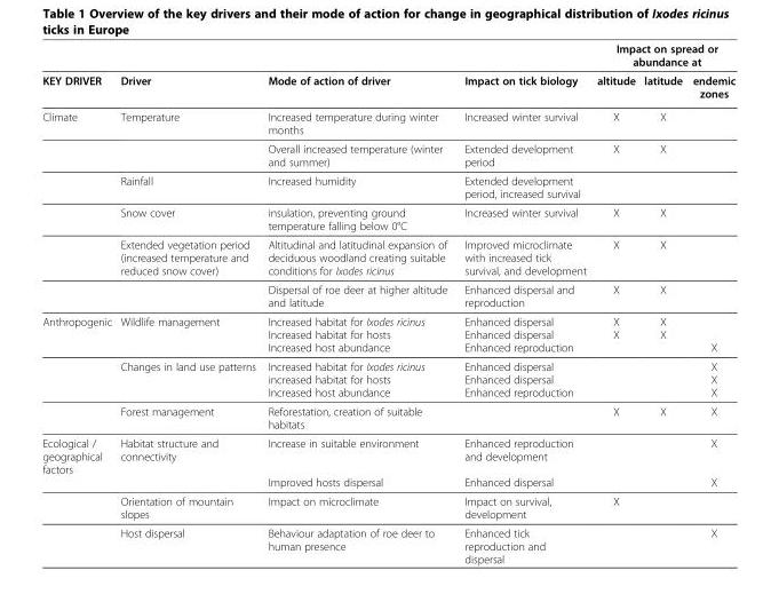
<table><thead><tr><td rowspan="2">KEY DRIVER</td><td rowspan="2">Driver</td><td rowspan="2">Mode of action of driver</td><td rowspan="2">Impact on tick biology</td><td colspan="3">Impact on spread or abundance at</td></tr><tr><td>altitude</td><td>latitude</td><td>endemic zones</td></tr></thead><tbody><tr><td rowspan="6">Climate</td><td>Temperature</td><td>Increased temperature during winter months</td><td>Increased winter survival</td><td>X</td><td>X</td><td></td></tr><tr><td></td><td>Overall increased temperature (winter and summer)</td><td>Extended development period</td><td>X</td><td>X</td><td></td></tr><tr><td>Rainfall</td><td>Increased humidity</td><td>Extended development period, increased survival</td><td></td><td></td><td></td></tr><tr><td>Snow cover</td><td>insulation, preventing ground temperature falling below 0°C</td><td>Increased winter survival</td><td>X</td><td>X</td><td></td></tr><tr><td>Extended vegetation period (increased temperature and reduced snow cover)</td><td>Altitudinal and latitudinal expansion of deciduous woodland creating suitable conditions for Ixodes ricinus</td><td>Improved microclimate with increased tick survival, and development</td><td>X</td><td>X</td><td></td></tr><tr><td></td><td>Dispersal of roe deer at higher altitude and latitude</td><td>Enhanced dispersal and reproduction</td><td>X</td><td>X</td><td></td></tr><tr><td rowspan="7">Anthropogenic</td><td>Wildlife management</td><td>Increased habitat for Ixodes ricinus</td><td>Enhanced dispersal</td><td>X</td><td>X</td><td></td></tr><tr><td></td><td>Increased habitat for hosts</td><td>Enhanced dispersal</td><td>X</td><td>X</td><td></td></tr><tr><td></td><td>Increased host abundance</td><td>Enhanced reproduction</td><td></td><td></td><td>X</td></tr><tr><td>Changes in land use patterns</td><td>Increased habitat for Ixodes ricinus</td><td>Enhanced dispersal</td><td></td><td></td><td>X</td></tr><tr><td></td><td>increased habitat for hosts</td><td>Enhanced dispersal</td><td></td><td></td><td>X</td></tr><tr><td></td><td>Increased host abundance</td><td>Enhanced reproduction</td><td></td><td></td><td>X</td></tr><tr><td>Forest management</td><td>Reforestation, creation of suitable habitats</td><td></td><td>X</td><td>X</td><td>X</td></tr><tr><td rowspan="4">Ecological / geographical factors</td><td>Habitat structure and connectivity</td><td>Increase in suitable environment</td><td>Enhanced reproduction and development</td><td></td><td></td><td>X</td></tr><tr><td></td><td>Improved hosts dispersal</td><td>Enhanced dispersal</td><td></td><td></td><td>X</td></tr><tr><td>Orientation of mountain slopes</td><td>Impact on microclimate</td><td>Impact on survival, development</td><td>X</td><td></td><td></td></tr><tr><td>Host dispersal</td><td>Behaviour adaptation of roe deer to human presence</td><td>Enhanced tick reproduction and dispersal</td><td></td><td></td><td>X</td></tr></tbody></table>